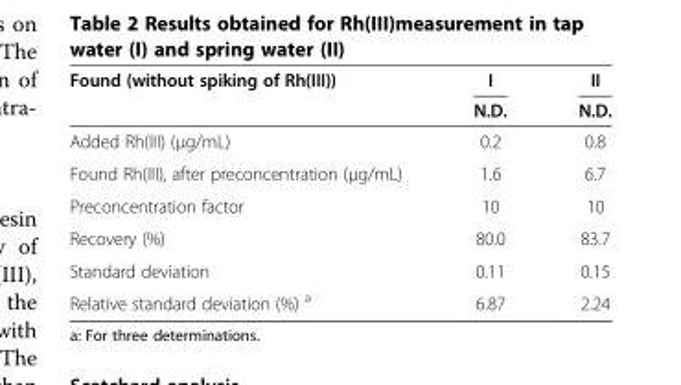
<table><thead><tr><td rowspan="2">Found (without spiking of Rh(III))</td><td rowspan="2">I N.D.</td><td rowspan="2">II N.D.</td></tr><tr></tr></thead><tbody><tr><td>Added Rh(III) (μg/mL)</td><td>0.2</td><td>0.8</td></tr><tr><td>Found Rh(III), after preconcentration (μg/mL)</td><td>1.6</td><td>6.7</td></tr><tr><td>Preconcentration factor</td><td>10</td><td>10</td></tr><tr><td>Recovery (%)</td><td>80.0</td><td>83.7</td></tr><tr><td>Standard deviation</td><td>0.11</td><td>0.15</td></tr><tr><td>Relative standard deviation (%) <sup>a</sup></td><td>6.87</td><td>2.24</td></tr></tbody></table>